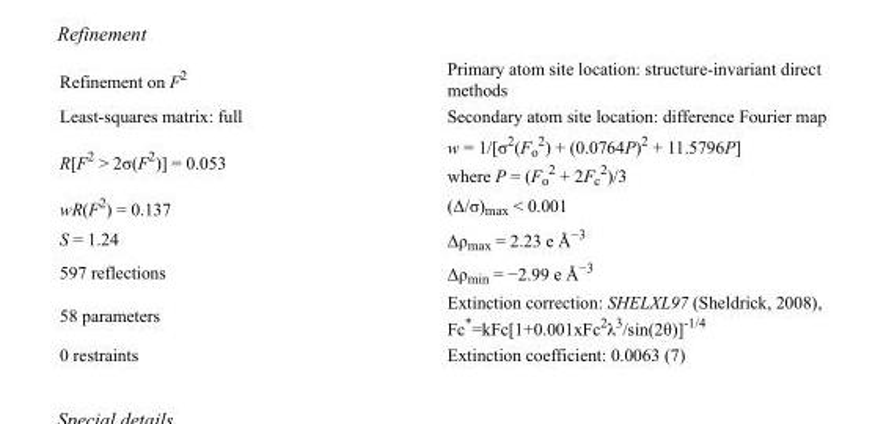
<table><tbody><tr><td>Refinement on F<sup>2</sup></td><td>Primary atom site location: structure-invariant direct methods</td></tr><tr><td>Least-squares matrix: full</td><td>Secondary atom site location: difference Fourier map</td></tr><tr><td>R[F<sup>2</sup> &gt; 2σ(F<sup>2</sup>)] = 0.053</td><td>w = 1/[σ<sup>2</sup>(F<sub>o</sub> <sup>2</sup>) + (0.0764P)<sup>2</sup> + 11.5796P] where P = (F<sub>o</sub> <sup>2</sup> + 2F<sub>c</sub> <sup>2</sup>)/3</td></tr><tr><td>wR(F<sup>2</sup>) = 0.137</td><td>(Δ/σ)<sub>max</sub> &lt; 0.001</td></tr><tr><td>S = 1.24</td><td>Δρ<sub>max</sub> = 2.23 e Å<sup>−3</sup></td></tr><tr><td>597 reflections</td><td>Δρ<sub>min</sub> = −2.99 e Å<sup>−3</sup></td></tr><tr><td>58 parameters</td><td>Extinction correction: SHELXL97 (Sheldrick, 2008), Fc*=kFc[1+0.001xFc<sup>2</sup>λ<sup>3</sup>/sin(2θ)]<sup>-1/4</sup></td></tr><tr><td>0 restraints</td><td>Extinction coefficient: 0.0063 (7)</td></tr></tbody></table>